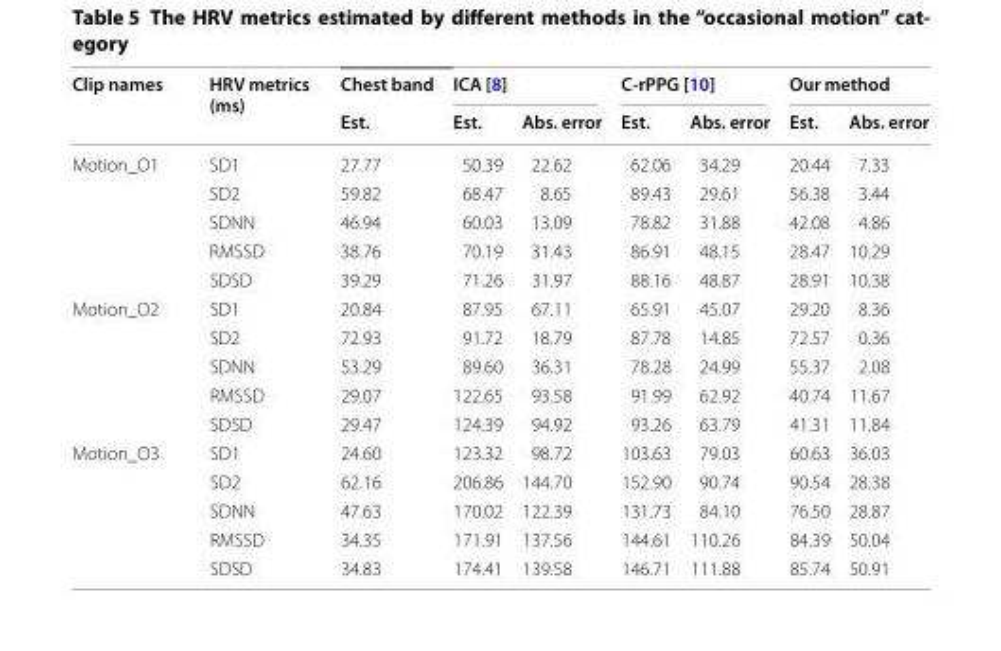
<table><thead><tr><td rowspan="2">Clip names</td><td rowspan="2">HRV metrics (ms)</td><td rowspan="2">Chest band Est.</td><td colspan="2">ICA [8]</td><td colspan="2">C‑rPPG [10]</td><td colspan="2">Our method</td></tr><tr><td>Est.</td><td>Abs. error</td><td>Est.</td><td>Abs. error</td><td>Est.</td><td>Abs. error</td></tr></thead><tbody><tr><td rowspan="5">Motion_O1</td><td>SD1</td><td>27.77</td><td>50.39</td><td>22.62</td><td>62.06</td><td>34.29</td><td>20.44</td><td>7.33</td></tr><tr><td>SD2</td><td>59.82</td><td>68.47</td><td>8.65</td><td>89.43</td><td>29.61</td><td>56.38</td><td>3.44</td></tr><tr><td>SDNN</td><td>46.94</td><td>60.03</td><td>13.09</td><td>78.82</td><td>31.88</td><td>42.08</td><td>4.86</td></tr><tr><td>RMSSD</td><td>38.76</td><td>70.19</td><td>31.43</td><td>86.91</td><td>48.15</td><td>28.47</td><td>10.29</td></tr><tr><td>SDSD</td><td>39.29</td><td>71.26</td><td>31.97</td><td>88.16</td><td>48.87</td><td>28.91</td><td>10.38</td></tr><tr><td rowspan="5">Motion_O2</td><td>SD1</td><td>20.84</td><td>87.95</td><td>67.11</td><td>65.91</td><td>45.07</td><td>29.20</td><td>8.36</td></tr><tr><td>SD2</td><td>72.93</td><td>91.72</td><td>18.79</td><td>87.78</td><td>14.85</td><td>72.57</td><td>0.36</td></tr><tr><td>SDNN</td><td>53.29</td><td>89.60</td><td>36.31</td><td>78.28</td><td>24.99</td><td>55.37</td><td>2.08</td></tr><tr><td>RMSSD</td><td>29.07</td><td>122.65</td><td>93.58</td><td>91.99</td><td>62.92</td><td>40.74</td><td>11.67</td></tr><tr><td>SDSD</td><td>29.47</td><td>124.39</td><td>94.92</td><td>93.26</td><td>63.79</td><td>41.31</td><td>11.84</td></tr><tr><td rowspan="5">Motion_O3</td><td>SD1</td><td>24.60</td><td>123.32</td><td>98.72</td><td>103.63</td><td>79.03</td><td>60.63</td><td>36.03</td></tr><tr><td>SD2</td><td>62.16</td><td>206.86</td><td>144.70</td><td>152.90</td><td>90.74</td><td>90.54</td><td>28.38</td></tr><tr><td>SDNN</td><td>47.63</td><td>170.02</td><td>122.39</td><td>131.73</td><td>84.10</td><td>76.50</td><td>28.87</td></tr><tr><td>RMSSD</td><td>34.35</td><td>171.91</td><td>137.56</td><td>144.61</td><td>110.26</td><td>84.39</td><td>50.04</td></tr><tr><td>SDSD</td><td>34.83</td><td>174.41</td><td>139.58</td><td>146.71</td><td>111.88</td><td>85.74</td><td>50.91</td></tr></tbody></table>